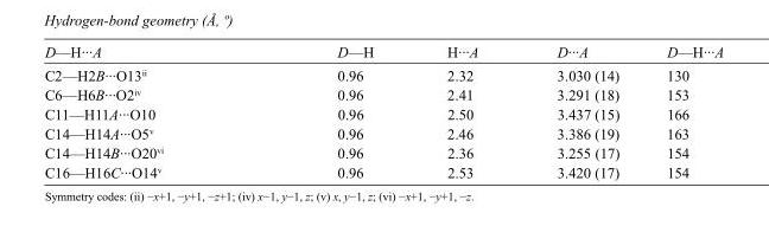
<table><tbody><tr><td>D—H···A</td><td>D—H</td><td>H···A</td><td>D···A</td><td>D—H···A</td></tr><tr><td>C2—H2B···O13<sup>ii</sup></td><td>0.96</td><td>2.32</td><td>3.030 (14)</td><td>130</td></tr><tr><td>C6—H6B···O2<sup>iv</sup></td><td>0.96</td><td>2.41</td><td>3.291 (18)</td><td>153</td></tr><tr><td>C11—H11A···O10</td><td>0.96</td><td>2.50</td><td>3.437 (15)</td><td>166</td></tr><tr><td>C14—H14A···O5<sup>v</sup></td><td>0.96</td><td>2.46</td><td>3.386 (19)</td><td>163</td></tr><tr><td>C14—H14B···O20<sup>vi</sup></td><td>0.96</td><td>2.36</td><td>3.255 (17)</td><td>154</td></tr><tr><td>C16—H16C···O14<sup>v</sup></td><td>0.96</td><td>2.53</td><td>3.420 (17)</td><td>154</td></tr></tbody></table>